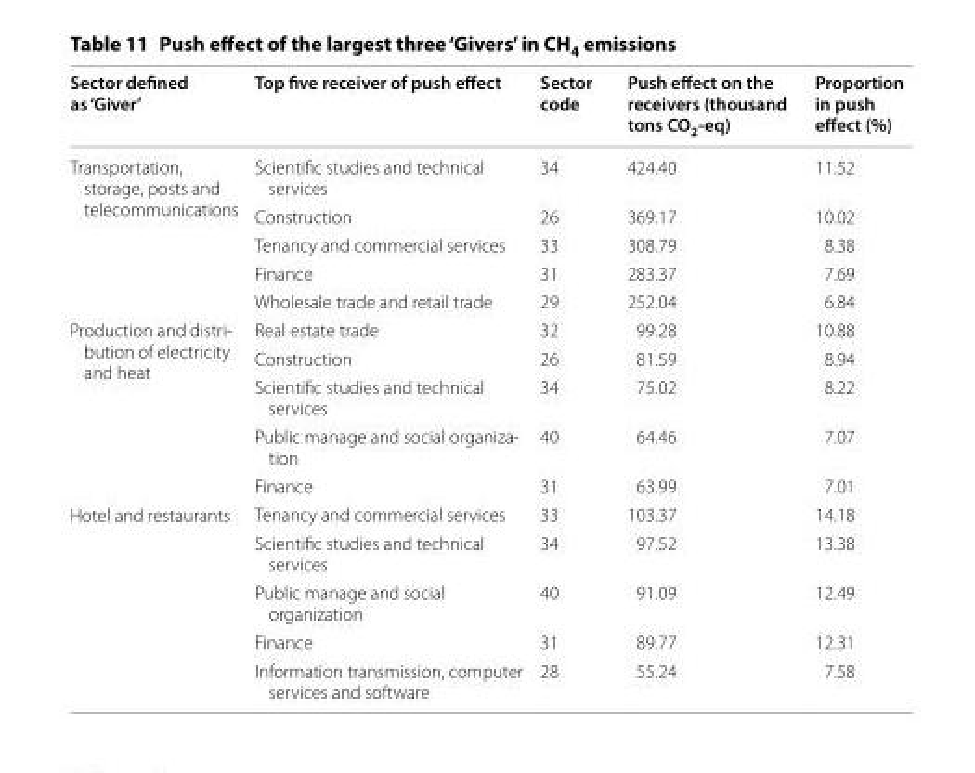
<table><thead><tr><td>Sector defined as ‘Giver’</td><td>Top five receiver of push effect</td><td>Sector code</td><td>Push effect on the receivers (thousand tons CO<sub>2</sub>-eq)</td><td>Proportion in push effect (%)</td></tr></thead><tbody><tr><td rowspan="5">Transportation, storage, posts and telecommunications</td><td>Scientific studies and technical services</td><td>34</td><td>424.40</td><td>11.52</td></tr><tr><td>Construction</td><td>26</td><td>369.17</td><td>10.02</td></tr><tr><td>Tenancy and commercial services</td><td>33</td><td>308.79</td><td>8.38</td></tr><tr><td>Finance</td><td>31</td><td>283.37</td><td>7.69</td></tr><tr><td>Wholesale trade and retail trade</td><td>29</td><td>252.04</td><td>6.84</td></tr><tr><td rowspan="5">Production and distri- bution of electricity and heat</td><td>Real estate trade</td><td>32</td><td>99.28</td><td>10.88</td></tr><tr><td>Construction</td><td>26</td><td>81.59</td><td>8.94</td></tr><tr><td>Scientific studies and technical services</td><td>34</td><td>75.02</td><td>8.22</td></tr><tr><td>Public manage and social organiza- tion</td><td>40</td><td>64.46</td><td>7.07</td></tr><tr><td>Finance</td><td>31</td><td>63.99</td><td>7.01</td></tr><tr><td rowspan="5">Hotel and restaurants</td><td>Tenancy and commercial services</td><td>33</td><td>103.37</td><td>14.18</td></tr><tr><td>Scientific studies and technical services</td><td>34</td><td>97.52</td><td>13.38</td></tr><tr><td>Public manage and social organization</td><td>40</td><td>91.09</td><td>12.49</td></tr><tr><td>Finance</td><td>31</td><td>89.77</td><td>12.31</td></tr><tr><td>Information transmission, computer services and software</td><td>28</td><td>55.24</td><td>7.58</td></tr></tbody></table>